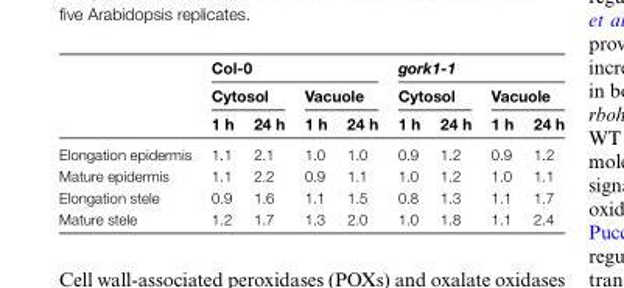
<table><thead><tr><td rowspan="3"></td><td colspan="4">Col-0</td><td colspan="4">gork1-1</td></tr><tr><td colspan="2">Cytosol</td><td colspan="2">Vacuole</td><td colspan="2">Cytosol</td><td colspan="2">Vacuole</td></tr><tr><td>1 h</td><td>24 h</td><td>1 h</td><td>24 h</td><td>1 h</td><td>24 h</td><td>1 h</td><td>24 h</td></tr></thead><tbody><tr><td>Elongation epidermis</td><td>1.1</td><td>2.1</td><td>1.0</td><td>1.0</td><td>0.9</td><td>1.2</td><td>0.9</td><td>1.2</td></tr><tr><td>Mature epidermis</td><td>1.1</td><td>2.2</td><td>0.9</td><td>1.1</td><td>1.0</td><td>1.2</td><td>1.0</td><td>1.1</td></tr><tr><td>Elongation stele</td><td>0.9</td><td>1.6</td><td>1.1</td><td>1.5</td><td>0.8</td><td>1.3</td><td>1.1</td><td>1.7</td></tr><tr><td>Mature stele</td><td>1.2</td><td>1.7</td><td>1.3</td><td>2.0</td><td>1.0</td><td>1.8</td><td>1.1</td><td>2.4</td></tr></tbody></table>